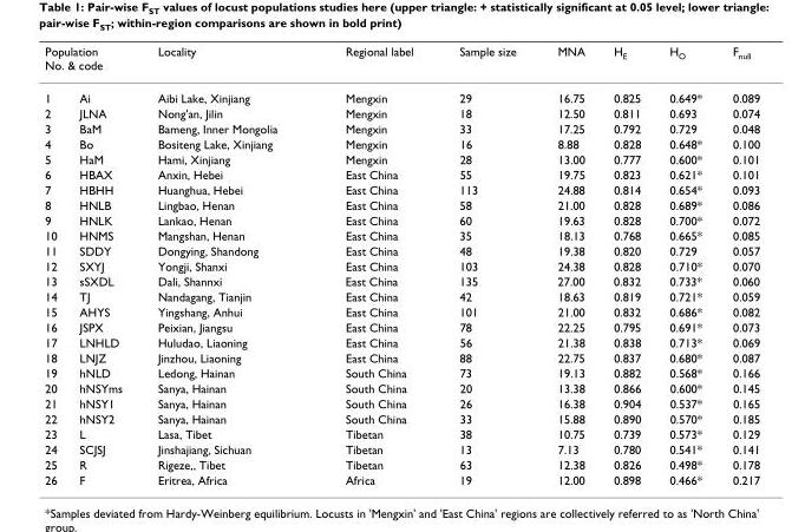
<table><thead><tr><td colspan="2">Population No. &amp; code</td><td rowspan="2">Locality Aibi Lake, Xinjiang</td><td rowspan="2">Regional label Mengxin</td><td rowspan="2">Sample size 29</td><td rowspan="2">MNA 16.75</td><td rowspan="2">H<sub>E</sub> 0.825</td><td rowspan="2">H<sub>O</sub> 0.649*</td><td rowspan="2">F<sub>null</sub> 0.089</td></tr><tr><td>1</td><td>Ai</td></tr></thead><tbody><tr><td>2</td><td>JLNA</td><td>Nong&#x27;an, Jilin</td><td>Mengxin</td><td>18</td><td>12.50</td><td>0.811</td><td>0.693</td><td>0.074</td></tr><tr><td>3</td><td>BaM</td><td>Bameng, Inner Mongolia</td><td>Mengxin</td><td>33</td><td>17.25</td><td>0.792</td><td>0.729</td><td>0.048</td></tr><tr><td>4</td><td>Bo</td><td>Bositeng Lake, Xinjiang</td><td>Mengxin</td><td>16</td><td>8.88</td><td>0.828</td><td>0.648*</td><td>0.100</td></tr><tr><td>5</td><td>HaM</td><td>Hami, Xinjiang</td><td>Mengxin</td><td>28</td><td>13.00</td><td>0.777</td><td>0.600*</td><td>0.101</td></tr><tr><td>6</td><td>HBAX</td><td>Anxin, Hebei</td><td>East China</td><td>55</td><td>19.75</td><td>0.823</td><td>0.621*</td><td>0.101</td></tr><tr><td>7</td><td>HBHH</td><td>Huanghua, Hebei</td><td>East China</td><td>113</td><td>24.88</td><td>0.814</td><td>0.654*</td><td>0.093</td></tr><tr><td>8</td><td>HNLB</td><td>Lingbao, Henan</td><td>East China</td><td>58</td><td>21.00</td><td>0.828</td><td>0.689*</td><td>0.086</td></tr><tr><td>9</td><td>HNLK</td><td>Lankao, Henan</td><td>East China</td><td>60</td><td>19.63</td><td>0.828</td><td>0.700*</td><td>0.072</td></tr><tr><td>10</td><td>HNMS</td><td>Mangshan, Henan</td><td>East China</td><td>35</td><td>18.13</td><td>0.768</td><td>0.665*</td><td>0.085</td></tr><tr><td>11</td><td>SDDY</td><td>Dongying, Shandong</td><td>East China</td><td>48</td><td>19.38</td><td>0.820</td><td>0.729</td><td>0.057</td></tr><tr><td>12</td><td>SXYJ</td><td>Yongji, Shanxi</td><td>East China</td><td>103</td><td>24.38</td><td>0.828</td><td>0.710*</td><td>0.070</td></tr><tr><td>13</td><td>sSXDL</td><td>Dali, Shannxi</td><td>East China</td><td>135</td><td>27.00</td><td>0.832</td><td>0.733*</td><td>0.060</td></tr><tr><td>14</td><td>TJ</td><td>Nandagang, Tianjin</td><td>East China</td><td>42</td><td>18.63</td><td>0.819</td><td>0.721*</td><td>0.059</td></tr><tr><td>15</td><td>AHYS</td><td>Yingshang, Anhui</td><td>East China</td><td>101</td><td>21.00</td><td>0.832</td><td>0.686*</td><td>0.082</td></tr><tr><td>16</td><td>JSPX</td><td>Peixian, Jiangsu</td><td>East China</td><td>78</td><td>22.25</td><td>0.795</td><td>0.691*</td><td>0.073</td></tr><tr><td>17</td><td>LNHLD</td><td>Huludao, Liaoning</td><td>East China</td><td>56</td><td>21.38</td><td>0.838</td><td>0.713*</td><td>0.069</td></tr><tr><td>18</td><td>LNJZ</td><td>Jinzhou, Liaoning</td><td>East China</td><td>88</td><td>22.75</td><td>0.837</td><td>0.680*</td><td>0.087</td></tr><tr><td>19</td><td>hNLD</td><td>Ledong, Hainan</td><td>South China</td><td>73</td><td>19.13</td><td>0.882</td><td>0.568*</td><td>0.166</td></tr><tr><td>20</td><td>hNSYms</td><td>Sanya, Hainan</td><td>South China</td><td>20</td><td>13.38</td><td>0.866</td><td>0.600*</td><td>0.145</td></tr><tr><td>21</td><td>hNSY1</td><td>Sanya, Hainan</td><td>South China</td><td>26</td><td>16.38</td><td>0.904</td><td>0.537*</td><td>0.165</td></tr><tr><td>22</td><td>hNSY2</td><td>Sanya, Hainan</td><td>South China</td><td>33</td><td>15.88</td><td>0.890</td><td>0.570*</td><td>0.185</td></tr><tr><td>23</td><td>L</td><td>Lasa, Tibet</td><td>Tibetan</td><td>38</td><td>10.75</td><td>0.739</td><td>0.573*</td><td>0.129</td></tr><tr><td>24</td><td>SCJSJ</td><td>Jinshajiang, Sichuan</td><td>Tibetan</td><td>13</td><td>7.13</td><td>0.780</td><td>0.541*</td><td>0.141</td></tr><tr><td>25</td><td>R</td><td>Rigeze,, Tibet</td><td>Tibetan</td><td>63</td><td>12.38</td><td>0.826</td><td>0.498*</td><td>0.178</td></tr><tr><td>26</td><td>F</td><td>Eritrea, Africa</td><td>Africa</td><td>19</td><td>12.00</td><td>0.898</td><td>0.466*</td><td>0.217</td></tr></tbody></table>